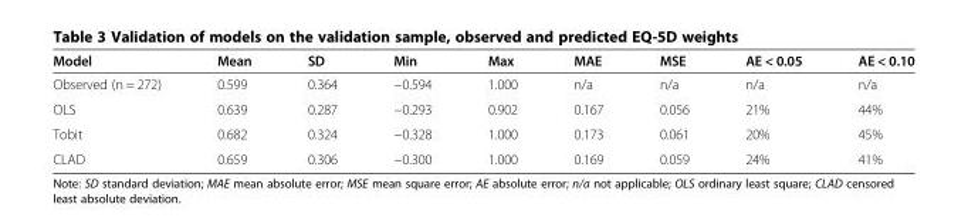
<table><thead><tr><td>Model</td><td>Mean</td><td>SD</td><td>Min</td><td>Max</td><td>MAE</td><td>MSE</td><td>AE &lt; 0.05</td><td>AE &lt; 0.10</td></tr></thead><tbody><tr><td>Observed (n = 272)</td><td>0.599</td><td>0.364</td><td>−0.594</td><td>1.000</td><td>n/a</td><td>n/a</td><td>n/a</td><td>n/a</td></tr><tr><td>OLS</td><td>0.639</td><td>0.287</td><td>−0.293</td><td>0.902</td><td>0.167</td><td>0.056</td><td>21%</td><td>44%</td></tr><tr><td>Tobit</td><td>0.682</td><td>0.324</td><td>−0.328</td><td>1.000</td><td>0.173</td><td>0.061</td><td>20%</td><td>45%</td></tr><tr><td>CLAD</td><td>0.659</td><td>0.306</td><td>−0.300</td><td>1.000</td><td>0.169</td><td>0.059</td><td>24%</td><td>41%</td></tr></tbody></table>